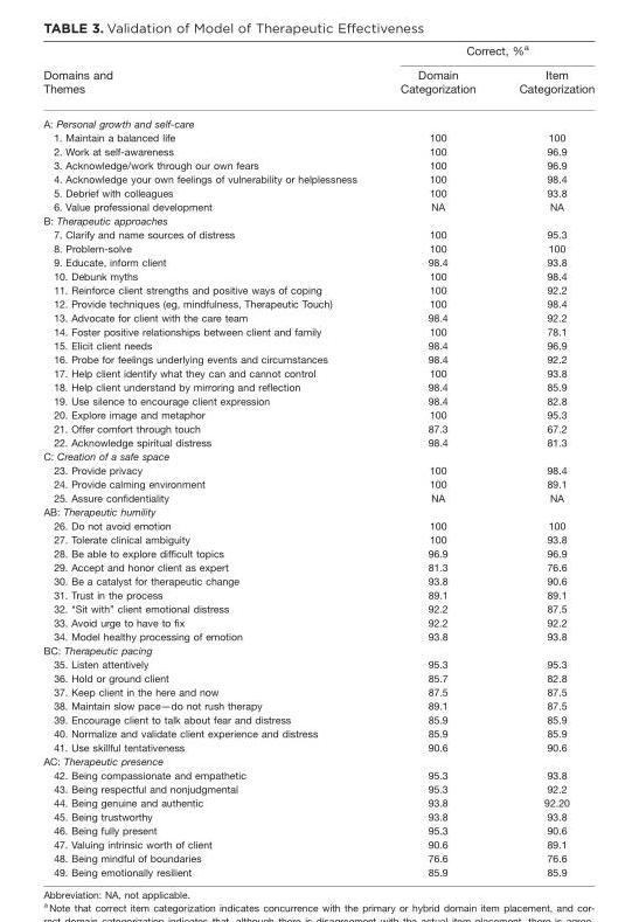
<table><thead><tr><td rowspan="2">Domains and Themes</td><td colspan="2">Correct, %<sup>a</sup></td></tr><tr><td>Domain Categorization</td><td>Item Categorization</td></tr></thead><tbody><tr><td colspan="3">A: Personal growth and self-care</td></tr><tr><td>1. Maintain a balanced life</td><td>100</td><td>100</td></tr><tr><td>2. Work at self-awareness</td><td>100</td><td>96.9</td></tr><tr><td>3. Acknowledge/work through our own fears</td><td>100</td><td>96.9</td></tr><tr><td>4. Acknowledge your own feelings of vulnerability or helplessness</td><td>100</td><td>98.4</td></tr><tr><td>5. Debrief with colleagues</td><td>100</td><td>93.8</td></tr><tr><td>6. Value professional development</td><td>NA</td><td>NA</td></tr><tr><td colspan="3">B: Therapeutic approaches</td></tr><tr><td>7. Clarify and name sources of distress</td><td>100</td><td>95.3</td></tr><tr><td>8. Problem-solve</td><td>100</td><td>100</td></tr><tr><td>9. Educate, inform client</td><td>98.4</td><td>93.8</td></tr><tr><td>10. Debunk myths</td><td>100</td><td>98.4</td></tr><tr><td>11. Reinforce client strengths and positive ways of coping</td><td>100</td><td>92.2</td></tr><tr><td>12. Provide techniques (eg, mindfulness, Therapeutic Touch)</td><td>100</td><td>98.4</td></tr><tr><td>13. Advocate for client with the care team</td><td>98.4</td><td>92.2</td></tr><tr><td>14. Foster positive relationships between client and family</td><td>100</td><td>78.1</td></tr><tr><td>15. Elicit client needs</td><td>98.4</td><td>96.9</td></tr><tr><td>16. Probe for feelings underlying events and circumstances</td><td>98.4</td><td>92.2</td></tr><tr><td>17. Help client identify what they can and cannot control</td><td>100</td><td>93.8</td></tr><tr><td>18. Help client understand by mirroring and reflection</td><td>98.4</td><td>85.9</td></tr><tr><td>19. Use silence to encourage client expression</td><td>98.4</td><td>82.8</td></tr><tr><td>20. Explore image and metaphor</td><td>100</td><td>95.3</td></tr><tr><td>21. Offer comfort through touch</td><td>87.3</td><td>67.2</td></tr><tr><td>22. Acknowledge spiritual distress</td><td>98.4</td><td>81.3</td></tr><tr><td colspan="3">C: Creation of a safe space</td></tr><tr><td>23. Provide privacy</td><td>100</td><td>98.4</td></tr><tr><td>24. Provide calming environment</td><td>100</td><td>89.1</td></tr><tr><td>25. Assure confidentiality</td><td>NA</td><td>NA</td></tr><tr><td colspan="3">AB: Therapeutic humility</td></tr><tr><td>26. Do not avoid emotion</td><td>100</td><td>100</td></tr><tr><td>27. Tolerate clinical ambiguity</td><td>100</td><td>93.8</td></tr><tr><td>28. Be able to explore difficult topics</td><td>96.9</td><td>96.9</td></tr><tr><td>29. Accept and honor client as expert</td><td>81.3</td><td>76.6</td></tr><tr><td>30. Be a catalyst for therapeutic change</td><td>93.8</td><td>90.6</td></tr><tr><td>31. Trust in the process</td><td>89.1</td><td>89.1</td></tr><tr><td>32. ‘‘Sit with’’ client emotional distress</td><td>92.2</td><td>87.5</td></tr><tr><td>33. Avoid urge to have to fix</td><td>92.2</td><td>92.2</td></tr><tr><td>34. Model healthy processing of emotion</td><td>93.8</td><td>93.8</td></tr><tr><td colspan="3">BC: Therapeutic pacing</td></tr><tr><td>35. Listen attentively</td><td>95.3</td><td>95.3</td></tr><tr><td>36. Hold or ground client</td><td>85.7</td><td>82.8</td></tr><tr><td>37. Keep client in the here and now</td><td>87.5</td><td>87.5</td></tr><tr><td>38. Maintain slow pace—do not rush therapy</td><td>89.1</td><td>87.5</td></tr><tr><td>39. Encourage client to talk about fear and distress</td><td>85.9</td><td>85.9</td></tr><tr><td>40. Normalize and validate client experience and distress</td><td>85.9</td><td>85.9</td></tr><tr><td>41. Use skillful tentativeness</td><td>90.6</td><td>90.6</td></tr><tr><td colspan="3">AC: Therapeutic presence</td></tr><tr><td>42. Being compassionate and empathetic</td><td>95.3</td><td>93.8</td></tr><tr><td>43. Being respectful and nonjudgmental</td><td>95.3</td><td>92.2</td></tr><tr><td>44. Being genuine and authentic</td><td>93.8</td><td>92.20</td></tr><tr><td>45. Being trustworthy</td><td>93.8</td><td>93.8</td></tr><tr><td>46. Being fully present</td><td>95.3</td><td>90.6</td></tr><tr><td>47. Valuing intrinsic worth of client</td><td>90.6</td><td>89.1</td></tr><tr><td>48. Being mindful of boundaries</td><td>76.6</td><td>76.6</td></tr><tr><td>49. Being emotionally resilient</td><td>85.9</td><td>85.9</td></tr></tbody></table>